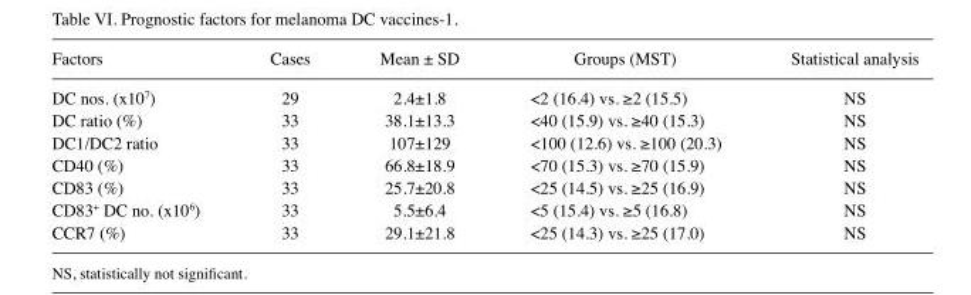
<table><thead><tr><td>Factors</td><td>Cases</td><td>Mean ± SD</td><td>Groups (MST)</td><td>Statistical analysis</td></tr></thead><tbody><tr><td>DC nos. (x107)</td><td>29</td><td>2.4±1.8</td><td>&lt;2 (16.4) vs. ≥2 (15.5)</td><td>NS</td></tr><tr><td>DC ratio (%)</td><td>33</td><td>38.1±13.3</td><td>&lt;40 (15.9) vs. ≥40 (15.3)</td><td>NS</td></tr><tr><td>DC1/DC2 ratio</td><td>33</td><td>107±129</td><td>&lt;100 (12.6) vs. ≥100 (20.3)</td><td>NS</td></tr><tr><td>CD40 (%)</td><td>33</td><td>66.8±18.9</td><td>&lt;70 (15.3) vs. ≥70 (15.9)</td><td>NS</td></tr><tr><td>CD83 (%)</td><td>33</td><td>25.7±20.8</td><td>&lt;25 (14.5) vs. ≥25 (16.9)</td><td>NS</td></tr><tr><td>CD83+ DC no. (x106)</td><td>33</td><td>5.5±6.4</td><td>&lt;5 (15.4) vs. ≥5 (16.8)</td><td>NS</td></tr><tr><td>CCR7 (%)</td><td>33</td><td>29.1±21.8</td><td>&lt;25 (14.3) vs. ≥25 (17.0)</td><td>NS</td></tr></tbody></table>